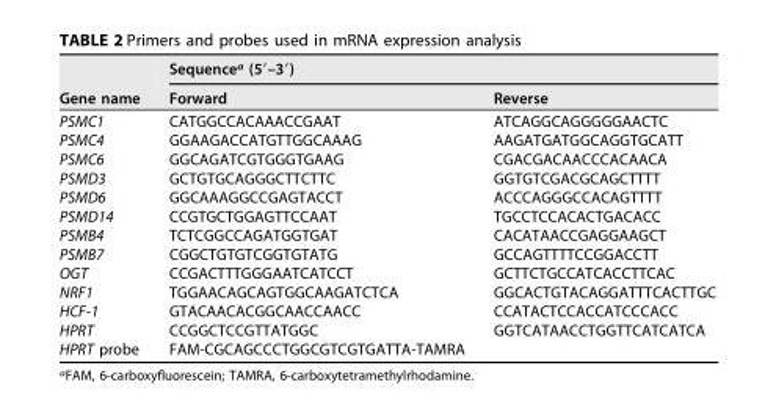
<table><thead><tr><td rowspan="2">Gene name</td><td colspan="2">Sequencea (5=–3=)</td></tr><tr><td>Forward</td><td>Reverse</td></tr></thead><tbody><tr><td>PSMC1</td><td>CATGGCCACAAACCGAAT</td><td>ATCAGGCAGGGGGAACTC</td></tr><tr><td>PSMC4</td><td>GGAAGACCATGTTGGCAAAG</td><td>AAGATGATGGCAGGTGCATT</td></tr><tr><td>PSMC6</td><td>GGCAGATCGTGGGTGAAG</td><td>CGACGACAACCCACAACA</td></tr><tr><td>PSMD3</td><td>GCTGTGCAGGGCTTCTTC</td><td>GGTGTCGACGCAGCTTTT</td></tr><tr><td>PSMD6</td><td>GGCAAAGGCCGAGTACCT</td><td>ACCCAGGGCCACAGTTTT</td></tr><tr><td>PSMD14</td><td>CCGTGCTGGAGTTCCAAT</td><td>TGCCTCCACACTGACACC</td></tr><tr><td>PSMB4</td><td>TCTCGGCCAGATGGTGAT</td><td>CACATAACCGAGGAAGCT</td></tr><tr><td>PSMB7</td><td>CGGCTGTGTCGGTGTATG</td><td>GCCAGTTTTCCGGACCTT</td></tr><tr><td>OGT</td><td>CCGACTTTGGGAATCATCCT</td><td>GCTTCTGCCATCACCTTCAC</td></tr><tr><td>NRF1</td><td>TGGAACAGCAGTGGCAAGATCTCA</td><td>GGCACTGTACAGGATTTCACTTGC</td></tr><tr><td>HCF-1</td><td>GTACAACACGGCAACCAACC</td><td>CCATACTCCACCATCCCACC</td></tr><tr><td>HPRT</td><td>CCGGCTCCGTTATGGC</td><td>GGTCATAACCTGGTTCATCATCA</td></tr><tr><td>HPRT probe</td><td>FAM-CGCAGCCCTGGCGTCGTGATTA-TAMRA</td><td></td></tr></tbody></table>